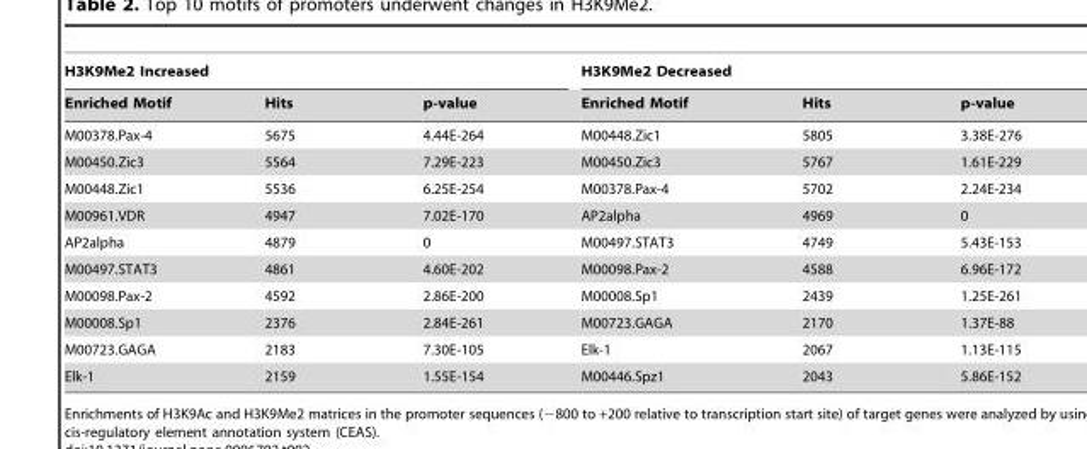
<table><thead><tr><td colspan="3">H3K9Me2 Increased</td><td colspan="3">H3K9Me2 Decreased</td></tr><tr><td>Enriched Motif</td><td>Hits</td><td>p-value</td><td>Enriched Motif</td><td>Hits</td><td>p-value</td></tr></thead><tbody><tr><td>M00378.Pax-4</td><td>5675</td><td>4.44E-264</td><td>M00448.Zic1</td><td>5805</td><td>3.38E-276</td></tr><tr><td>M00450.Zic3</td><td>5564</td><td>7.29E-223</td><td>M00450.Zic3</td><td>5767</td><td>1.61E-229</td></tr><tr><td>M00448.Zic1</td><td>5536</td><td>6.25E-254</td><td>M00378.Pax-4</td><td>5702</td><td>2.24E-234</td></tr><tr><td>M00961.VDR</td><td>4947</td><td>7.02E-170</td><td>AP2alpha</td><td>4969</td><td>0</td></tr><tr><td>AP2alpha</td><td>4879</td><td>0</td><td>M00497.STAT3</td><td>4749</td><td>5.43E-153</td></tr><tr><td>M00497.STAT3</td><td>4861</td><td>4.60E-202</td><td>M00098.Pax-2</td><td>4588</td><td>6.96E-172</td></tr><tr><td>M00098.Pax-2</td><td>4592</td><td>2.86E-200</td><td>M00008.Sp1</td><td>2439</td><td>1.25E-261</td></tr><tr><td>M00008.Sp1</td><td>2376</td><td>2.84E-261</td><td>M00723.GAGA</td><td>2170</td><td>1.37E-88</td></tr><tr><td>M00723.GAGA</td><td>2183</td><td>7.30E-105</td><td>Elk-1</td><td>2067</td><td>1.13E-115</td></tr><tr><td>Elk-1</td><td>2159</td><td>1.55E-154</td><td>M00446.Spz1</td><td>2043</td><td>5.86E-152</td></tr></tbody></table>